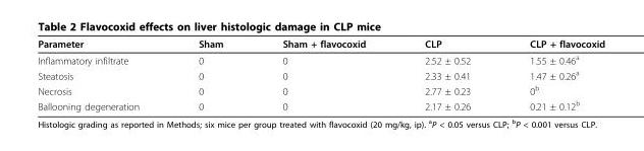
<table><thead><tr><td>Parameter</td><td>Sham</td><td>Sham + flavocoxid</td><td>CLP</td><td>CLP + flavocoxid</td></tr></thead><tbody><tr><td>Inflammatory infiltrate</td><td>0</td><td>0</td><td>2.52 ± 0.52</td><td>1.55 ± 0.46a</td></tr><tr><td>Steatosis</td><td>0</td><td>0</td><td>2.33 ± 0.41</td><td>1.47 ± 0.26a</td></tr><tr><td>Necrosis</td><td>0</td><td>0</td><td>2.77 ± 0.23</td><td>0b</td></tr><tr><td>Ballooning degeneration</td><td>0</td><td>0</td><td>2.17 ± 0.26</td><td>0.21 ± 0.12b</td></tr></tbody></table>